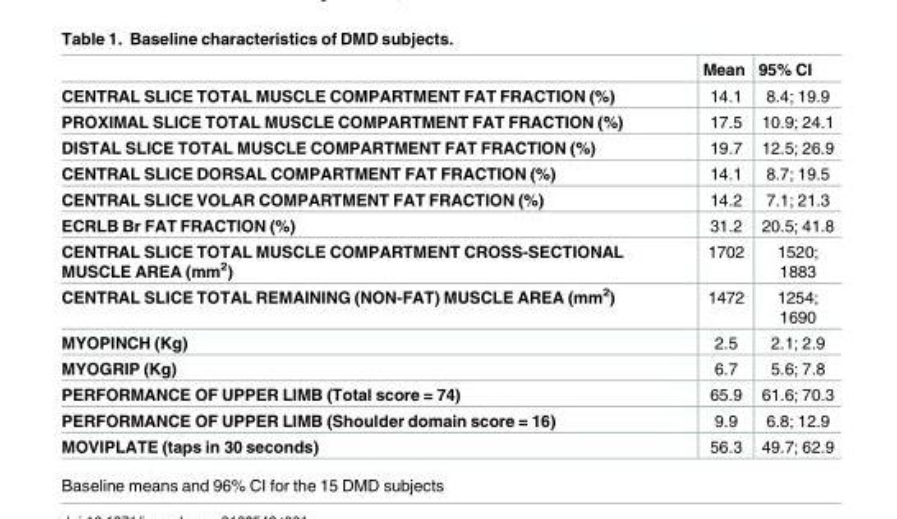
<table><thead><tr><td></td><td>Mean</td><td>95% CI</td></tr></thead><tbody><tr><td>CENTRAL SLICE TOTAL MUSCLE COMPARTMENT FAT FRACTION (%)</td><td>14.1</td><td>8.4; 19.9</td></tr><tr><td>PROXIMAL SLICE TOTAL MUSCLE COMPARTMENT FAT FRACTION (%)</td><td>17.5</td><td>10.9; 24.1</td></tr><tr><td>DISTAL SLICE TOTAL MUSCLE COMPARTMENT FAT FRACTION (%)</td><td>19.7</td><td>12.5; 26.9</td></tr><tr><td>CENTRAL SLICE DORSAL COMPARTMENT FAT FRACTION (%)</td><td>14.1</td><td>8.7; 19.5</td></tr><tr><td>CENTRAL SLICE VOLAR COMPARTMENT FAT FRACTION (%)</td><td>14.2</td><td>7.1; 21.3</td></tr><tr><td>ECRLB Br FAT FRACTION (%)</td><td>31.2</td><td>20.5; 41.8</td></tr><tr><td>CENTRAL SLICE TOTAL MUSCLE COMPARTMENT CROSS-SECTIONAL MUSCLE AREA (mm<sup>2</sup>)</td><td>1702</td><td>1520; 1883</td></tr><tr><td>CENTRAL SLICE TOTAL REMAINING (NON-FAT) MUSCLE AREA (mm<sup>2</sup>)</td><td>1472</td><td>1254; 1690</td></tr><tr><td>MYOPINCH (Kg)</td><td>2.5</td><td>2.1; 2.9</td></tr><tr><td>MYOGRIP (Kg)</td><td>6.7</td><td>5.6; 7.8</td></tr><tr><td>PERFORMANCE OF UPPER LIMB (Total score = 74)</td><td>65.9</td><td>61.6; 70.3</td></tr><tr><td>PERFORMANCE OF UPPER LIMB (Shoulder domain score = 16)</td><td>9.9</td><td>6.8; 12.9</td></tr><tr><td>MOVIPLATE (taps in 30 seconds)</td><td>56.3</td><td>49.7; 62.9</td></tr></tbody></table>